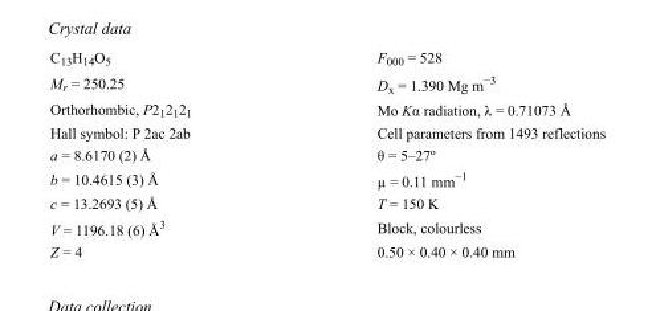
<table><tbody><tr><td>C<sub>13</sub>H<sub>14</sub>O<sub>5</sub></td><td>F000 = 528</td></tr><tr><td>M<sub>r</sub> = 250.25</td><td>D<sub>x</sub> = 1.390 Mg m<sup>−3</sup></td></tr><tr><td>Orthorhombic, P2<sub>1</sub>2<sub>1</sub>2<sub>1</sub></td><td>Mo Kα radiation, λ = 0.71073 Å</td></tr><tr><td>Hall symbol: P 2ac 2ab</td><td>Cell parameters from 1493 reflections</td></tr><tr><td>a = 8.6170 (2) Å</td><td>θ = 5–27º</td></tr><tr><td>b = 10.4615 (3) Å</td><td>µ = 0.11 mm<sup>−1</sup></td></tr><tr><td>c = 13.2693 (5) Å</td><td>T = 150 K</td></tr><tr><td>V = 1196.18 (6) Å<sup>3</sup></td><td>Block, colourless</td></tr><tr><td>Z = 4</td><td>0.50 × 0.40 × 0.40 mm</td></tr></tbody></table>